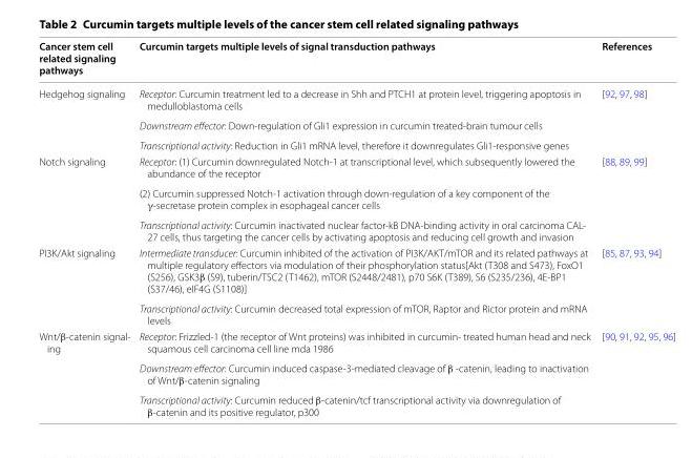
<table><thead><tr><td>Cancer stem cell related signaling pathways</td><td>Curcumin targets multiple levels of signal transduction pathways</td><td>References</td></tr></thead><tbody><tr><td rowspan="3">Hedgehog signaling</td><td>Receptor: Curcumin treatment led to a decrease in Shh and PTCH1 at protein level, triggering apoptosis in medulloblastoma cells</td><td rowspan="3">[92, 97, 98]</td></tr><tr><td>Downstream effector: Down-regulation of Gli1 expression in curcumin treated-brain tumour cells</td></tr><tr><td>Transcriptional activity: Reduction in Gli1 mRNA level, therefore it downregulates Gli1-responsive genes</td></tr><tr><td rowspan="3">Notch signaling</td><td>Receptor: (1) Curcumin downregulated Notch-1 at transcriptional level, which subsequently lowered the abundance of the receptor</td><td rowspan="3">[88, 89, 99]</td></tr><tr><td>(2) Curcumin suppressed Notch-1 activation through down-regulation of a key component of the γ-secretase protein complex in esophageal cancer cells</td></tr><tr><td>Transcriptional activity: Curcumin inactivated nuclear factor-kB DNA-binding activity in oral carcinoma CAL- 27 cells, thus targeting the cancer cells by activating apoptosis and reducing cell growth and invasion</td></tr><tr><td rowspan="2">PI3K/Akt signaling</td><td>Intermediate transducer: Curcumin inhibited of the activation of PI3K/AKT/mTOR and its related pathways at multiple regulatory effectors via modulation of their phosphorylation status[Akt (T308 and S473), FoxO1 (S256), GSK3β (S9), tuberin/TSC2 (T1462), mTOR (S2448/2481), p70 S6K (T389), S6 (S235/236), 4E-BP1 (S37/46), eIF4G (S1108)]</td><td rowspan="2">[85, 87, 93,</td></tr><tr><td>Transcriptional activity: Curcumin decreased total expression of mTOR, Raptor and Rictor protein and mRNA levels</td></tr><tr><td rowspan="3">Wnt/β-catenin signal- ing</td><td>Receptor: Frizzled-1 (the receptor of Wnt proteins) was inhibited in curcumin- treated human head and neck squamous cell carcinoma cell line mda 1986</td><td rowspan="3">[90, 91, 92,</td></tr><tr><td>Downstream effector: Curcumin induced caspase-3-mediated cleavage of β -catenin, leading to inactivation of Wnt/β-catenin signaling</td></tr><tr><td>Transcriptional activity: Curcumin reduced β-catenin/tcf transcriptional activity via downregulation of β-catenin and its positive regulator, p300</td></tr></tbody></table>